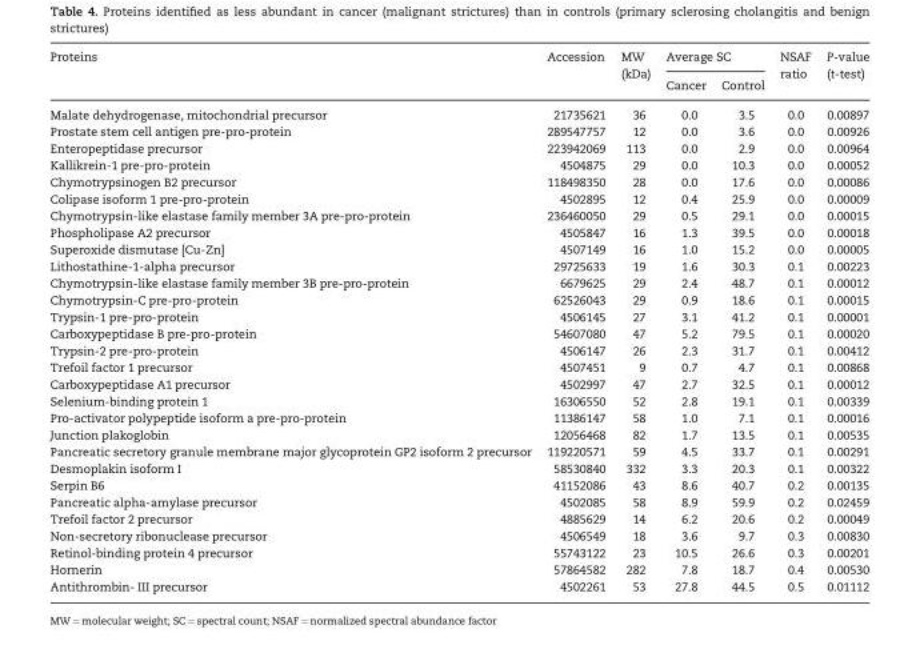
<table><thead><tr><td rowspan="2">Proteins</td><td rowspan="2">Accession</td><td rowspan="2">MW (kDa)</td><td colspan="2">Average SC</td><td rowspan="2">NSAF ratio</td><td rowspan="2">P-value (t-test)</td></tr><tr><td>Cancer</td><td>Control</td></tr></thead><tbody><tr><td>Malate dehydrogenase, mitochondrial precursor</td><td>21735621</td><td>36</td><td>0.0</td><td>3.5</td><td>0.0</td><td>0.00897</td></tr><tr><td>Prostate stem cell antigen pre-pro-protein</td><td>289547757</td><td>12</td><td>0.0</td><td>3.6</td><td>0.0</td><td>0.00926</td></tr><tr><td>Enteropeptidase precursor</td><td>223942069</td><td>113</td><td>0.0</td><td>2.9</td><td>0.0</td><td>0.00964</td></tr><tr><td>Kallikrein-1 pre-pro-protein</td><td>4504875</td><td>29</td><td>0.0</td><td>10.3</td><td>0.0</td><td>0.00052</td></tr><tr><td>Chymotrypsinogen B2 precursor</td><td>118498350</td><td>28</td><td>0.0</td><td>17.6</td><td>0.0</td><td>0.00086</td></tr><tr><td>Colipase isoform 1 pre-pro-protein</td><td>4502895</td><td>12</td><td>0.4</td><td>25.9</td><td>0.0</td><td>0.00009</td></tr><tr><td>Chymotrypsin-like elastase family member 3A pre-pro-protein</td><td>236460050</td><td>29</td><td>0.5</td><td>29.1</td><td>0.0</td><td>0.00015</td></tr><tr><td>Phospholipase A2 precursor</td><td>4505847</td><td>16</td><td>1.3</td><td>39.5</td><td>0.0</td><td>0.00018</td></tr><tr><td>Superoxide dismutase [Cu-Zn]</td><td>4507149</td><td>16</td><td>1.0</td><td>15.2</td><td>0.0</td><td>0.00005</td></tr><tr><td>Lithostathine-1-alpha precursor</td><td>29725633</td><td>19</td><td>1.6</td><td>30.3</td><td>0.1</td><td>0.00223</td></tr><tr><td>Chymotrypsin-like elastase family member 3B pre-pro-protein</td><td>6679625</td><td>29</td><td>2.4</td><td>48.7</td><td>0.1</td><td>0.00012</td></tr><tr><td>Chymotrypsin-C pre-pro-protein</td><td>62526043</td><td>29</td><td>0.9</td><td>18.6</td><td>0.1</td><td>0.00015</td></tr><tr><td>Trypsin-1 pre-pro-protein</td><td>4506145</td><td>27</td><td>3.1</td><td>41.2</td><td>0.1</td><td>0.00001</td></tr><tr><td>Carboxypeptidase B pre-pro-protein</td><td>54607080</td><td>47</td><td>5.2</td><td>79.5</td><td>0.1</td><td>0.00020</td></tr><tr><td>Trypsin-2 pre-pro-protein</td><td>4506147</td><td>26</td><td>2.3</td><td>31.7</td><td>0.1</td><td>0.00412</td></tr><tr><td>Trefoil factor 1 precursor</td><td>4507451</td><td>9</td><td>0.7</td><td>4.7</td><td>0.1</td><td>0.00868</td></tr><tr><td>Carboxypeptidase A1 precursor</td><td>4502997</td><td>47</td><td>2.7</td><td>32.5</td><td>0.1</td><td>0.00012</td></tr><tr><td>Selenium-binding protein 1</td><td>16306550</td><td>52</td><td>2.8</td><td>19.1</td><td>0.1</td><td>0.00339</td></tr><tr><td>Pro-activator polypeptide isoform a pre-pro-protein</td><td>11386147</td><td>58</td><td>1.0</td><td>7.1</td><td>0.1</td><td>0.00016</td></tr><tr><td>Junction plakoglobin</td><td>12056468</td><td>82</td><td>1.7</td><td>13.5</td><td>0.1</td><td>0.00535</td></tr><tr><td>Pancreatic secretory granule membrane major glycoprotein GP2 isoform 2 precursor</td><td>119220571</td><td>59</td><td>4.5</td><td>33.7</td><td>0.1</td><td>0.00291</td></tr><tr><td>Desmoplakin isoform I</td><td>58530840</td><td>332</td><td>3.3</td><td>20.3</td><td>0.1</td><td>0.00322</td></tr><tr><td>Serpin B6</td><td>41152086</td><td>43</td><td>8.6</td><td>40.7</td><td>0.2</td><td>0.00135</td></tr><tr><td>Pancreatic alpha-amylase precursor</td><td>4502085</td><td>58</td><td>8.9</td><td>59.9</td><td>0.2</td><td>0.02459</td></tr><tr><td>Trefoil factor 2 precursor</td><td>4885629</td><td>14</td><td>6.2</td><td>20.6</td><td>0.2</td><td>0.00049</td></tr><tr><td>Non-secretory ribonuclease precursor</td><td>4506549</td><td>18</td><td>3.6</td><td>9.7</td><td>0.3</td><td>0.00830</td></tr><tr><td>Retinol-binding protein 4 precursor</td><td>55743122</td><td>23</td><td>10.5</td><td>26.6</td><td>0.3</td><td>0.00201</td></tr><tr><td>Hornerin</td><td>57864582</td><td>282</td><td>7.8</td><td>18.7</td><td>0.4</td><td>0.00530</td></tr><tr><td>Antithrombin- III precursor</td><td>4502261</td><td>53</td><td>27.8</td><td>44.5</td><td>0.5</td><td>0.01112</td></tr></tbody></table>